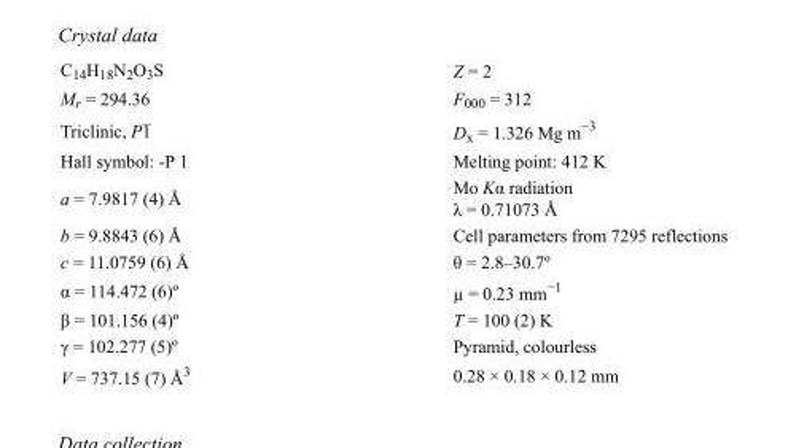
<table><tbody><tr><td>C<sub>14</sub>H<sub>18</sub>N<sub>2</sub>O<sub>3</sub>S</td><td>Z = 2</td></tr><tr><td>M<sub>r</sub> = 294.36</td><td>F<sub>000</sub> = 312</td></tr><tr><td>Triclinic, P1</td><td>D<sub>x</sub> = 1.326 Mg m<sup>−3</sup></td></tr><tr><td>Hall symbol: -P 1</td><td>Melting point: 412 K</td></tr><tr><td>a = 7.9817 (4) Å</td><td>Mo Kα radiation λ = 0.71073 Å</td></tr><tr><td>b = 9.8843 (6) Å</td><td>Cell parameters from 7295 reflections</td></tr><tr><td>c = 11.0759 (6) Å</td><td>θ = 2.8–30.7º</td></tr><tr><td>α = 114.472 (6)º</td><td>µ = 0.23 mm<sup>−1</sup></td></tr><tr><td>β = 101.156 (4)º</td><td>T = 100 (2) K</td></tr><tr><td>γ = 102.277 (5)º</td><td>Pyramid, colourless</td></tr><tr><td>V = 737.15 (7) Å<sup>3</sup></td><td>0.28 × 0.18 × 0.12 mm</td></tr></tbody></table>